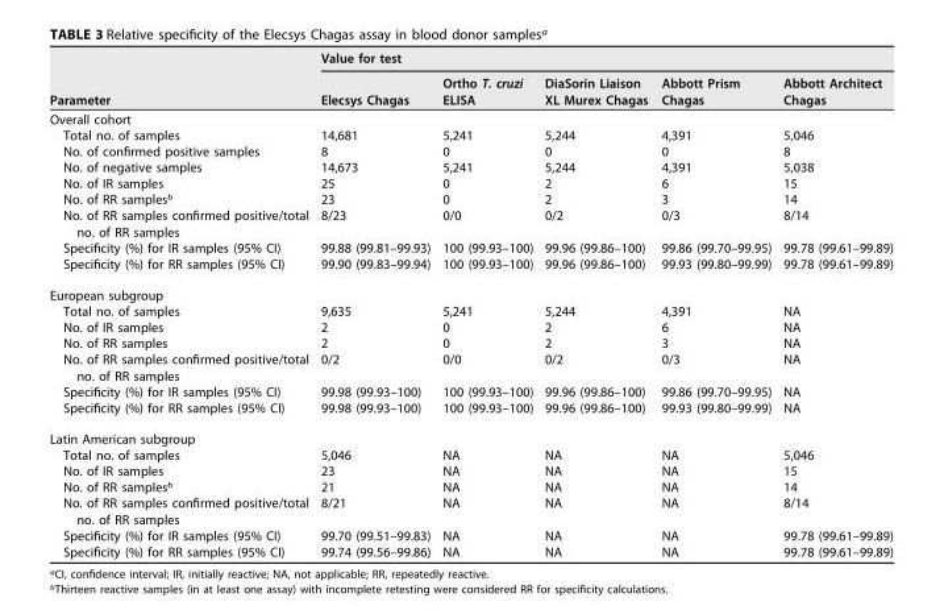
<table><thead><tr><td rowspan="2">Parameter</td><td colspan="5">Value for test</td></tr><tr><td>Elecsys Chagas</td><td>Ortho T. cruzi ELISA</td><td>DiaSorin Liaison XL Murex Chagas</td><td>Abbott Prism Chagas</td><td>Abbott Architect Chagas</td></tr></thead><tbody><tr><td colspan="6">Overall cohort</td></tr><tr><td>Total no. of samples</td><td>14,681</td><td>5,241</td><td>5,244</td><td>4,391</td><td>5,046</td></tr><tr><td>No. of confirmed positive samples</td><td>8</td><td>0</td><td>0</td><td>0</td><td>8</td></tr><tr><td>No. of negative samples</td><td>14,673</td><td>5,241</td><td>5,244</td><td>4,391</td><td>5,038</td></tr><tr><td>No. of IR samples</td><td>25</td><td>0</td><td>2</td><td>6</td><td>15</td></tr><tr><td>No. of RR samples<sup>b</sup></td><td>23</td><td>0</td><td>2</td><td>3</td><td>14</td></tr><tr><td>No. of RR samples confirmed positive/total no. of RR samples</td><td>8/23</td><td>0/0</td><td>0/2</td><td>0/3</td><td>8/14</td></tr><tr><td>Specificity (%) for IR samples (95% CI)</td><td>99.88 (99.81–99.93)</td><td>100 (99.93–100)</td><td>99.96 (99.86–100)</td><td>99.86 (99.70–99.95)</td><td>99.78 (99.61–99.89)</td></tr><tr><td>Specificity (%) for RR samples (95% CI)</td><td>99.90 (99.83–99.94)</td><td>100 (99.93–100)</td><td>99.96 (99.86–100)</td><td>99.93 (99.80–99.99)</td><td>99.78 (99.61–99.89)</td></tr><tr><td colspan="6">European subgroup</td></tr><tr><td>Total no. of samples</td><td>9,635</td><td>5,241</td><td>5,244</td><td>4,391</td><td>NA</td></tr><tr><td>No. of IR samples</td><td>2</td><td>0</td><td>2</td><td>6</td><td>NA</td></tr><tr><td>No. of RR samples</td><td>2</td><td>0</td><td>2</td><td>3</td><td>NA</td></tr><tr><td>No. of RR samples confirmed positive/total no. of RR samples</td><td>0/2</td><td>0/0</td><td>0/2</td><td>0/3</td><td>NA</td></tr><tr><td>Specificity (%) for IR samples (95% CI)</td><td>99.98 (99.93–100)</td><td>100 (99.93–100)</td><td>99.96 (99.86–100)</td><td>99.86 (99.70–99.95)</td><td>NA</td></tr><tr><td>Specificity (%) for RR samples (95% CI)</td><td>99.98 (99.93–100)</td><td>100 (99.93–100)</td><td>99.96 (99.86–100)</td><td>99.93 (99.80–99.99)</td><td>NA</td></tr><tr><td colspan="6">Latin American subgroup</td></tr><tr><td>Total no. of samples</td><td>5,046</td><td>NA</td><td>NA</td><td>NA</td><td>5,046</td></tr><tr><td>No. of IR samples</td><td>23</td><td>NA</td><td>NA</td><td>NA</td><td>15</td></tr><tr><td>No. of RR samples<sup>b</sup></td><td>21</td><td>NA</td><td>NA</td><td>NA</td><td>14</td></tr><tr><td>No. of RR samples confirmed positive/total no. of RR samples</td><td>8/21</td><td>NA</td><td>NA</td><td>NA</td><td>8/14</td></tr><tr><td>Specificity (%) for IR samples (95% CI)</td><td>99.70 (99.51–99.83)</td><td>NA</td><td>NA</td><td>NA</td><td>99.78 (99.61–99.89)</td></tr><tr><td>Specificity (%) for RR samples (95% CI)</td><td>99.74 (99.56–99.86)</td><td>NA</td><td>NA</td><td>NA</td><td>99.78 (99.61–99.89)</td></tr></tbody></table>